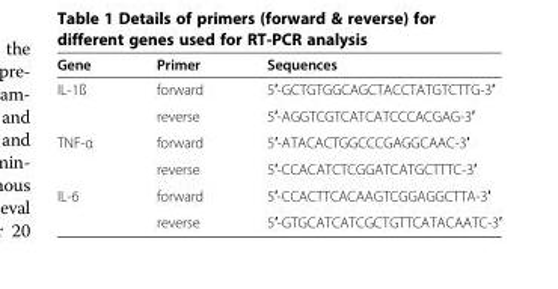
<table><thead><tr><td>Gene</td><td>Primer</td><td>Sequences</td></tr></thead><tbody><tr><td rowspan="2">IL-1ß</td><td>forward</td><td>5′-GCTGTGGCAGCTACCTATGTCTTG-3′</td></tr><tr><td>reverse</td><td>5′-AGGTCGTCATCATCCCACGAG-3′</td></tr><tr><td rowspan="2">TNF-α</td><td>forward</td><td>5′-ATACACTGGCCCGAGGCAAC-3′</td></tr><tr><td>reverse</td><td>5′-CCACATCTCGGATCATGCTTTC-3′</td></tr><tr><td rowspan="2">IL-6</td><td>forward</td><td>5′-CCACTTCACAAGTCGGAGGCTTA-3′</td></tr><tr><td>reverse</td><td>5′-GTGCATCATCGCTGTTCATACAATC-3′</td></tr></tbody></table>